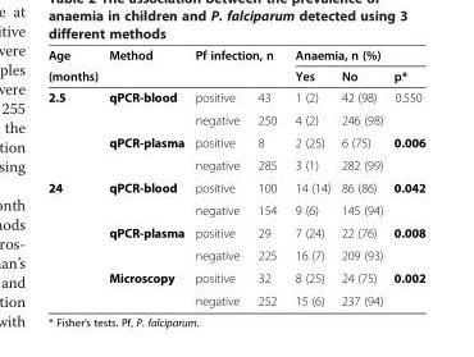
<table><thead><tr><td rowspan="2">Age (months)</td><td rowspan="2">Method</td><td colspan="2">Pf infection, n</td><td colspan="3">Anaemia, n (%)</td></tr><tr><td></td><td></td><td>Yes</td><td>No</td><td>p*</td></tr></thead><tbody><tr><td rowspan="4">2.5</td><td>qPCR-blood</td><td>positive</td><td>43</td><td>1 (2)</td><td>42 (98)</td><td>0.550</td></tr><tr><td></td><td>negative</td><td>250</td><td>4 (2)</td><td>246 (98)</td><td></td></tr><tr><td>qPCR-plasma</td><td>positive</td><td>8</td><td>2 (25)</td><td>6 (75)</td><td>0.006</td></tr><tr><td></td><td>negative</td><td>285</td><td>3 (1)</td><td>282 (99)</td><td></td></tr><tr><td rowspan="6">24</td><td>qPCR-blood</td><td>positive</td><td>100</td><td>14 (14)</td><td>86 (86)</td><td>0.042</td></tr><tr><td></td><td>negative</td><td>154</td><td>9 (6)</td><td>145 (94)</td><td></td></tr><tr><td>qPCR-plasma</td><td>positive</td><td>29</td><td>7 (24)</td><td>22 (76)</td><td>0.008</td></tr><tr><td></td><td>negative</td><td>225</td><td>16 (7)</td><td>209 (93)</td><td></td></tr><tr><td>Microscopy</td><td>positive</td><td>32</td><td>8 (25)</td><td>24 (75)</td><td>0.002</td></tr><tr><td></td><td>negative</td><td>252</td><td>15 (6)</td><td>237 (94)</td><td></td></tr></tbody></table>